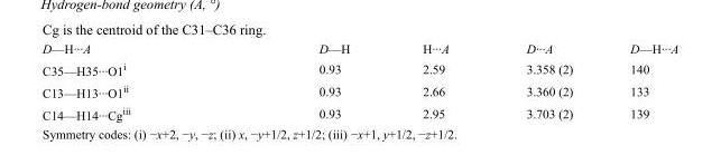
<table><tbody><tr><td>D—H···A</td><td>D—H</td><td>H···A</td><td>D···A</td><td>D—H···A</td></tr><tr><td>C35—H35···O1<sup>i</sup></td><td>0.93</td><td>2.59</td><td>3.358 (2)</td><td>140</td></tr><tr><td>C13—H13···O1<sup>ii</sup></td><td>0.93</td><td>2.66</td><td>3.360 (2)</td><td>133</td></tr><tr><td>C14—H14···Cg<sup>iii</sup></td><td>0.93</td><td>2.95</td><td>3.703 (2)</td><td>139</td></tr></tbody></table>